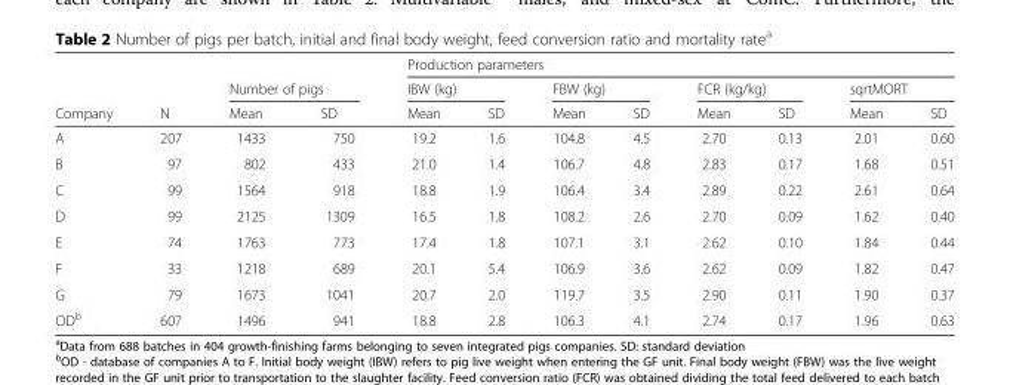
<table><thead><tr><td rowspan="3">Company</td><td rowspan="3">N</td><td></td><td></td><td colspan="8">Production parameters</td></tr><tr><td colspan="2">Number of pigs</td><td colspan="2">IBW (kg)</td><td colspan="2">FBW (kg)</td><td colspan="2">FCR (kg/kg)</td><td colspan="2">sqrtMORT</td></tr><tr><td>Mean</td><td>SD</td><td>Mean</td><td>SD</td><td>Mean</td><td>SD</td><td>Mean</td><td>SD</td><td>Mean</td><td>SD</td></tr></thead><tbody><tr><td>A</td><td>207</td><td>1433</td><td>750</td><td>19.2</td><td>1.6</td><td>104.8</td><td>4.5</td><td>2.70</td><td>0.13</td><td>2.01</td><td>0.60</td></tr><tr><td>B</td><td>97</td><td>802</td><td>433</td><td>21.0</td><td>1.4</td><td>106.7</td><td>4.8</td><td>2.83</td><td>0.17</td><td>1.68</td><td>0.51</td></tr><tr><td>C</td><td>99</td><td>1564</td><td>918</td><td>18.8</td><td>1.9</td><td>106.4</td><td>3.4</td><td>2.89</td><td>0.22</td><td>2.61</td><td>0.64</td></tr><tr><td>D</td><td>99</td><td>2125</td><td>1309</td><td>16.5</td><td>1.8</td><td>108.2</td><td>2.6</td><td>2.70</td><td>0.09</td><td>1.62</td><td>0.40</td></tr><tr><td>E</td><td>74</td><td>1763</td><td>773</td><td>17.4</td><td>1.8</td><td>107.1</td><td>3.1</td><td>2.62</td><td>0.10</td><td>1.84</td><td>0.44</td></tr><tr><td>F</td><td>33</td><td>1218</td><td>689</td><td>20.1</td><td>5.4</td><td>106.9</td><td>3.6</td><td>2.62</td><td>0.09</td><td>1.82</td><td>0.47</td></tr><tr><td>G</td><td>79</td><td>1673</td><td>1041</td><td>20.7</td><td>2.0</td><td>119.7</td><td>3.5</td><td>2.90</td><td>0.11</td><td>1.90</td><td>0.37</td></tr><tr><td>OD<sup>b</sup></td><td>607</td><td>1496</td><td>941</td><td>18.8</td><td>2.8</td><td>106.3</td><td>4.1</td><td>2.74</td><td>0.17</td><td>1.96</td><td>0.63</td></tr></tbody></table>